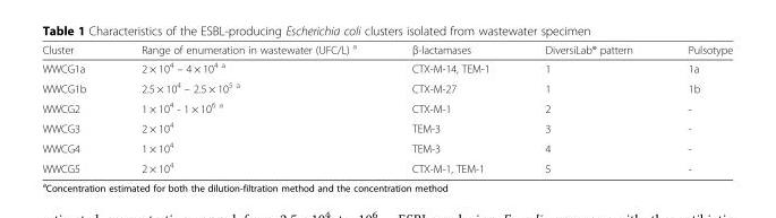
<table><thead><tr><td>Cluster</td><td>Range of enumeration in wastewater (UFC/L) <sup>a</sup></td><td>β-lactamases</td><td>DiversiLab® pattern</td><td>Pulsotype</td></tr></thead><tbody><tr><td>WWCG1a</td><td>2 × 10<sup>4</sup> – 4 × 10<sup>4 a</sup></td><td>CTX-M-14, TEM-1</td><td>1</td><td>1a</td></tr><tr><td>WWCG1b</td><td>2.5 × 10<sup>4</sup> – 2.5 × 10<sup>5 a</sup></td><td>CTX-M-27</td><td>1</td><td>1b</td></tr><tr><td>WWCG2</td><td>1 × 10<sup>4</sup> - 1 × 10<sup>6 a</sup></td><td>CTX-M-1</td><td>2</td><td>-</td></tr><tr><td>WWCG3</td><td>2 × 10<sup>4</sup></td><td>TEM-3</td><td>3</td><td>-</td></tr><tr><td>WWCG4</td><td>1 × 10<sup>4</sup></td><td>TEM-3</td><td>4</td><td>-</td></tr><tr><td>WWCG5</td><td>2 × 10<sup>4</sup></td><td>CTX-M-1, TEM-1</td><td>5</td><td>-</td></tr></tbody></table>